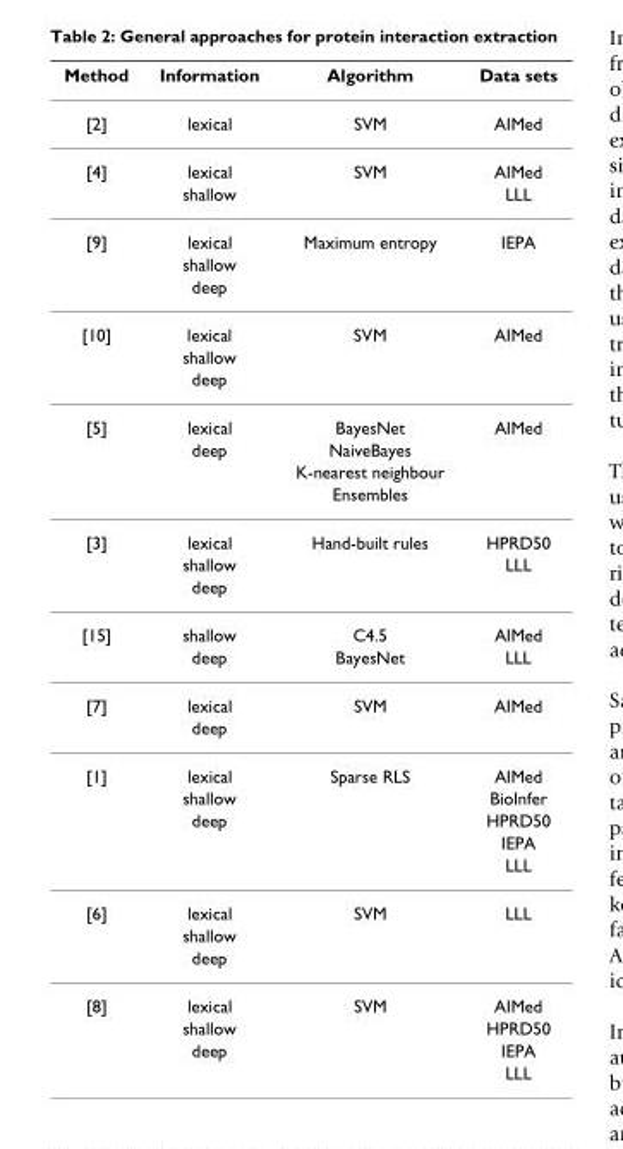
<table><thead><tr><td>Method</td><td>Information</td><td>Algorithm</td><td>Data sets</td></tr></thead><tbody><tr><td>[2]</td><td>lexical</td><td>SVM</td><td>AIMed</td></tr><tr><td rowspan="2">[4]</td><td>lexical</td><td>SVM</td><td>AIMed</td></tr><tr><td>shallow</td><td></td><td>LLL</td></tr><tr><td rowspan="3">[9]</td><td>lexical</td><td>Maximum entropy</td><td>IEPA</td></tr><tr><td>shallow</td><td></td><td></td></tr><tr><td>deep</td><td></td><td></td></tr><tr><td rowspan="3">[10]</td><td>lexical</td><td>SVM</td><td>AIMed</td></tr><tr><td>shallow</td><td></td><td></td></tr><tr><td>deep</td><td></td><td></td></tr><tr><td rowspan="4">[5]</td><td>lexical</td><td>BayesNet</td><td>AIMed</td></tr><tr><td>deep</td><td>NaiveBayes</td><td></td></tr><tr><td></td><td>K-nearest neighbour</td><td></td></tr><tr><td></td><td>Ensembles</td><td></td></tr><tr><td rowspan="3">[3]</td><td>lexical</td><td>Hand-built rules</td><td>HPRD50</td></tr><tr><td>shallow</td><td></td><td>LLL</td></tr><tr><td>deep</td><td></td><td></td></tr><tr><td rowspan="2">[15]</td><td>shallow</td><td>C4.5</td><td>AIMed</td></tr><tr><td>deep</td><td>BayesNet</td><td>LLL</td></tr><tr><td rowspan="2">[7]</td><td>lexical</td><td>SVM</td><td>AIMed</td></tr><tr><td>deep</td><td></td><td></td></tr><tr><td rowspan="5">[1]</td><td>lexical</td><td>Sparse RLS</td><td>AIMed</td></tr><tr><td>shallow</td><td></td><td>BioInfer</td></tr><tr><td>deep</td><td></td><td>HPRD50</td></tr><tr><td></td><td></td><td>IEPA</td></tr><tr><td></td><td></td><td>LLL</td></tr><tr><td rowspan="3">[6]</td><td>lexical</td><td>SVM</td><td>LLL</td></tr><tr><td>shallow</td><td></td><td></td></tr><tr><td>deep</td><td></td><td></td></tr><tr><td rowspan="4">[8]</td><td>lexical</td><td>SVM</td><td>AIMed</td></tr><tr><td>shallow</td><td></td><td>HPRD50</td></tr><tr><td>deep</td><td></td><td>IEPA</td></tr><tr><td></td><td></td><td>LLL</td></tr></tbody></table>